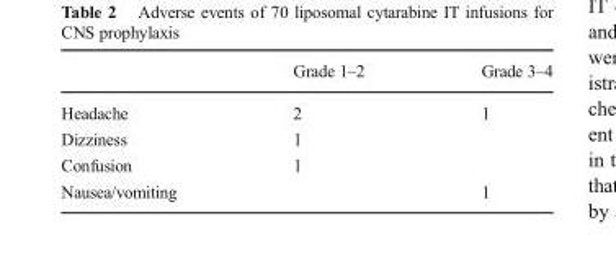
<table><thead><tr><td></td><td>Grade 1–2</td><td>Grade 3–4</td></tr></thead><tbody><tr><td>Headache</td><td>2</td><td>1</td></tr><tr><td>Dizziness</td><td>1</td><td></td></tr><tr><td>Confusion</td><td>1</td><td></td></tr><tr><td>Nausea/vomiting</td><td></td><td>1</td></tr></tbody></table>